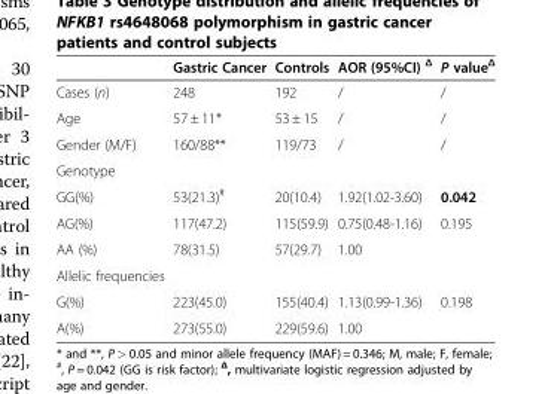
<table><thead><tr><td></td><td>Gastric Cancer</td><td>Controls</td><td>AOR (95%CI) <sup>Δ</sup></td><td>P value<sup>Δ</sup></td></tr></thead><tbody><tr><td>Cases (n)</td><td>248</td><td>192</td><td>/</td><td>/</td></tr><tr><td>Age</td><td>57 ± 11*</td><td>53 ± 15</td><td>/</td><td>/</td></tr><tr><td>Gender (M/F)</td><td>160/88**</td><td>119/73</td><td>/</td><td>/</td></tr><tr><td colspan="5">Genotype</td></tr><tr><td>GG(%)</td><td>53(21.3)<sup>#</sup></td><td>20(10.4)</td><td>1.92(1.02-3.60)</td><td>0.042</td></tr><tr><td>AG(%)</td><td>117(47.2)</td><td>115(59.9)</td><td>0.75(0.48-1.16)</td><td>0.195</td></tr><tr><td>AA (%)</td><td>78(31.5)</td><td>57(29.7)</td><td>1.00</td><td></td></tr><tr><td colspan="5">Allelic frequencies</td></tr><tr><td>G(%)</td><td>223(45.0)</td><td>155(40.4)</td><td>1.13(0.99-1.36)</td><td>0.198</td></tr><tr><td>A(%)</td><td>273(55.0)</td><td>229(59.6)</td><td>1.00</td><td></td></tr></tbody></table>